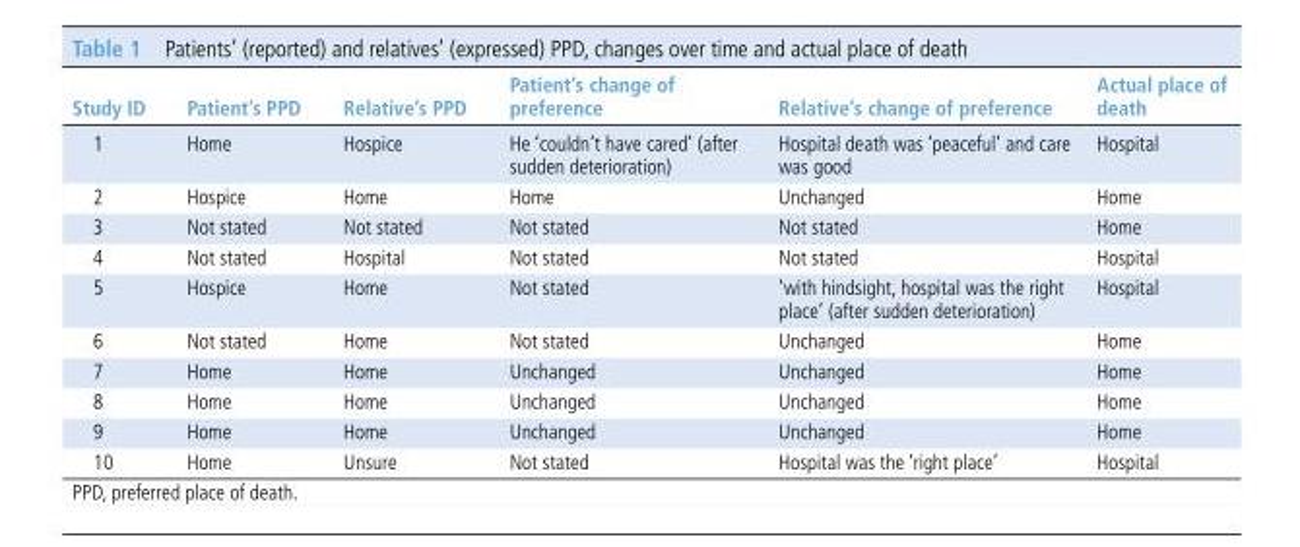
<table><thead><tr><td>Study ID</td><td>Patient’s PPD</td><td>Relative’s PPD</td><td>Patient’s change of preference</td><td>Relative’s change of preference</td><td>Actual place of death</td></tr></thead><tbody><tr><td>1</td><td>Home</td><td>Hospice</td><td>He ‘couldn’t have cared’ (after sudden deterioration)</td><td>Hospital death was ‘peaceful’ and care was good</td><td>Hospital</td></tr><tr><td>2</td><td>Hospice</td><td>Home</td><td>Home</td><td>Unchanged</td><td>Home</td></tr><tr><td>3</td><td>Not stated</td><td>Not stated</td><td>Not stated</td><td>Not stated</td><td>Home</td></tr><tr><td>4</td><td>Not stated</td><td>Hospital</td><td>Not stated</td><td>Not stated</td><td>Hospital</td></tr><tr><td>5</td><td>Hospice</td><td>Home</td><td>Not stated</td><td>‘with hindsight, hospital was the right place’ (after sudden deterioration)</td><td>Hospital</td></tr><tr><td>6</td><td>Not stated</td><td>Home</td><td>Not stated</td><td>Unchanged</td><td>Home</td></tr><tr><td>7</td><td>Home</td><td>Home</td><td>Unchanged</td><td>Unchanged</td><td>Home</td></tr><tr><td>8</td><td>Home</td><td>Home</td><td>Unchanged</td><td>Unchanged</td><td>Home</td></tr><tr><td>9</td><td>Home</td><td>Home</td><td>Unchanged</td><td>Unchanged</td><td>Home</td></tr><tr><td>10</td><td>Home</td><td>Unsure</td><td>Not stated</td><td>Hospital was the ‘right place’</td><td>Hospital</td></tr></tbody></table>